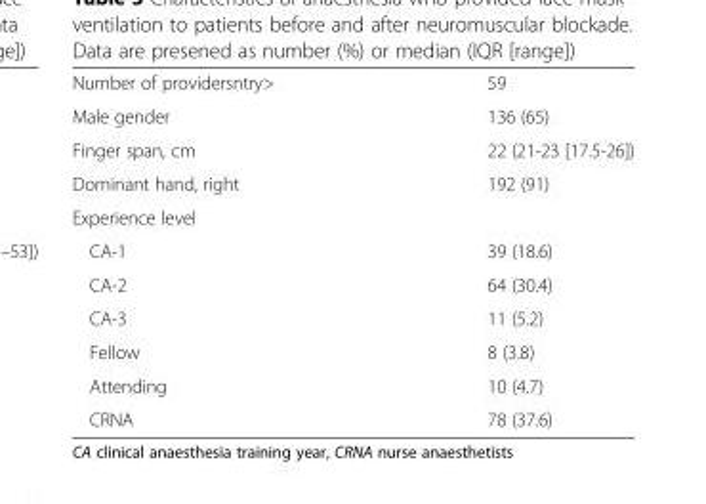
<table><tbody><tr><td>Number of providersntry&gt;</td><td>59</td></tr><tr><td>Male gender</td><td>136 (65)</td></tr><tr><td>Finger span, cm</td><td>22 (21-23 [17.5-26])</td></tr><tr><td>Dominant hand, right</td><td>192 (91)</td></tr><tr><td colspan="2">Experience level</td></tr><tr><td>CA-1</td><td>39 (18.6)</td></tr><tr><td>CA-2</td><td>64 (30.4)</td></tr><tr><td>CA-3</td><td>11 (5.2)</td></tr><tr><td>Fellow</td><td>8 (3.8)</td></tr><tr><td>Attending</td><td>10 (4.7)</td></tr><tr><td>CRNA</td><td>78 (37.6)</td></tr></tbody></table>